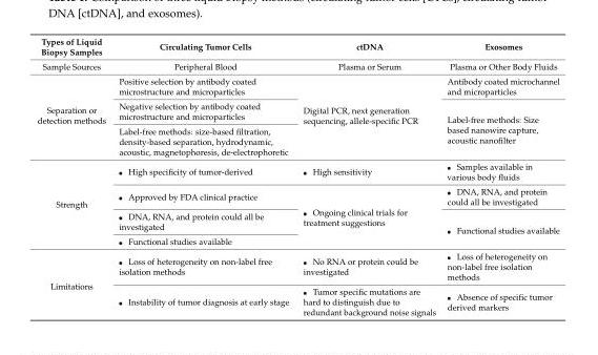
<table><thead><tr><td>Types of Liquid Biopsy Samples</td><td>Circulating Tumor Cells</td><td>ctDNA</td><td>Exosomes</td></tr></thead><tbody><tr><td>Sample Sources</td><td>Peripheral Blood</td><td>Plasma or Serum</td><td>Plasma or Other Body Fluids</td></tr><tr><td rowspan="3">Separation or detection methods</td><td>Positive selection by antibody coated microstructure and microparticles</td><td rowspan="3">Digital PCR, next generation sequencing, allele-specific PCR</td><td>Antibody coated microchannel and microparticles</td></tr><tr><td>Negative selection by antibody coated microstructure and microparticles</td><td rowspan="2">Label-free methods: Size based nanowire capture, acoustic nanofilter</td></tr><tr><td>Label-free methods: size-based filtration, density-based separation, hydrodynamic, acoustic, magnetophoresis, de-electrophoretic</td></tr><tr><td rowspan="4">Strength</td><td>High specificity of tumor-derived</td><td>High sensitivity</td><td>Samples available in various body fluids</td></tr><tr><td>Approved by FDA clinical practice</td><td rowspan="3">Ongoing clinical trials for treatment suggestions</td><td>DNA, RNA, and protein could all be investigated</td></tr><tr><td>DNA, RNA, and protein could all be investigated</td><td rowspan="2">Functional studies available</td></tr><tr><td>Functional studies available</td></tr><tr><td rowspan="2">Limitations</td><td>Loss of heterogeneity on non-label free isolation methods</td><td>No RNA or protein could be investigated</td><td>Loss of heterogeneity on non-label free isolation methods</td></tr><tr><td>Instability of tumor diagnosis at early stage</td><td>Tumor specific mutations are hard to distinguish due to redundant background noise signals</td><td>Absence of specific tumor derived markers</td></tr></tbody></table>